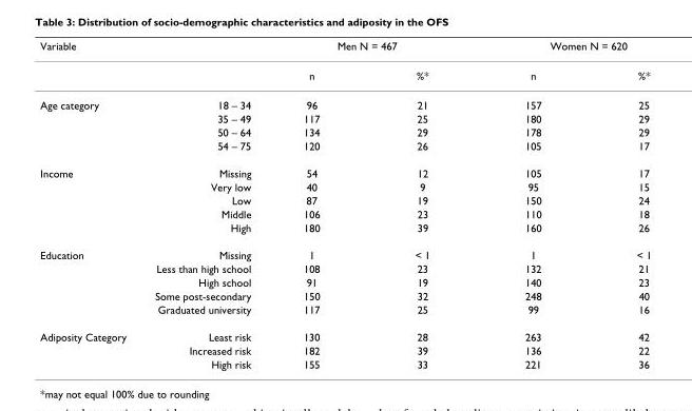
<table><thead><tr><td rowspan="2">Variable</td><td rowspan="2"></td><td colspan="2">Men N = 467</td><td colspan="2">Women N = 620</td></tr><tr><td>n</td><td>%*</td><td>n</td><td>%*</td></tr></thead><tbody><tr><td rowspan="4">Age category</td><td>18 – 34</td><td>96</td><td>21</td><td>157</td><td>25</td></tr><tr><td>35 – 49</td><td>117</td><td>25</td><td>180</td><td>29</td></tr><tr><td>50 – 64</td><td>134</td><td>29</td><td>178</td><td>29</td></tr><tr><td>54 – 75</td><td>120</td><td>26</td><td>105</td><td>17</td></tr><tr><td rowspan="5">Income</td><td>Missing</td><td>54</td><td>12</td><td>105</td><td>17</td></tr><tr><td>Very low</td><td>40</td><td>9</td><td>95</td><td>15</td></tr><tr><td>Low</td><td>87</td><td>19</td><td>150</td><td>24</td></tr><tr><td>Middle</td><td>106</td><td>23</td><td>110</td><td>18</td></tr><tr><td>High</td><td>180</td><td>39</td><td>160</td><td>26</td></tr><tr><td rowspan="5">Education</td><td>Missing</td><td>1</td><td>&lt; 1</td><td>1</td><td>&lt; 1</td></tr><tr><td>Less than high school</td><td>108</td><td>23</td><td>132</td><td>21</td></tr><tr><td>High school</td><td>91</td><td>19</td><td>140</td><td>23</td></tr><tr><td>Some post-secondary</td><td>150</td><td>32</td><td>248</td><td>40</td></tr><tr><td>Graduated university</td><td>117</td><td>25</td><td>99</td><td>16</td></tr><tr><td rowspan="3">Adiposity Category</td><td>Least risk</td><td>130</td><td>28</td><td>263</td><td>42</td></tr><tr><td>Increased risk</td><td>182</td><td>39</td><td>136</td><td>22</td></tr><tr><td>High risk</td><td>155</td><td>33</td><td>221</td><td>36</td></tr></tbody></table>